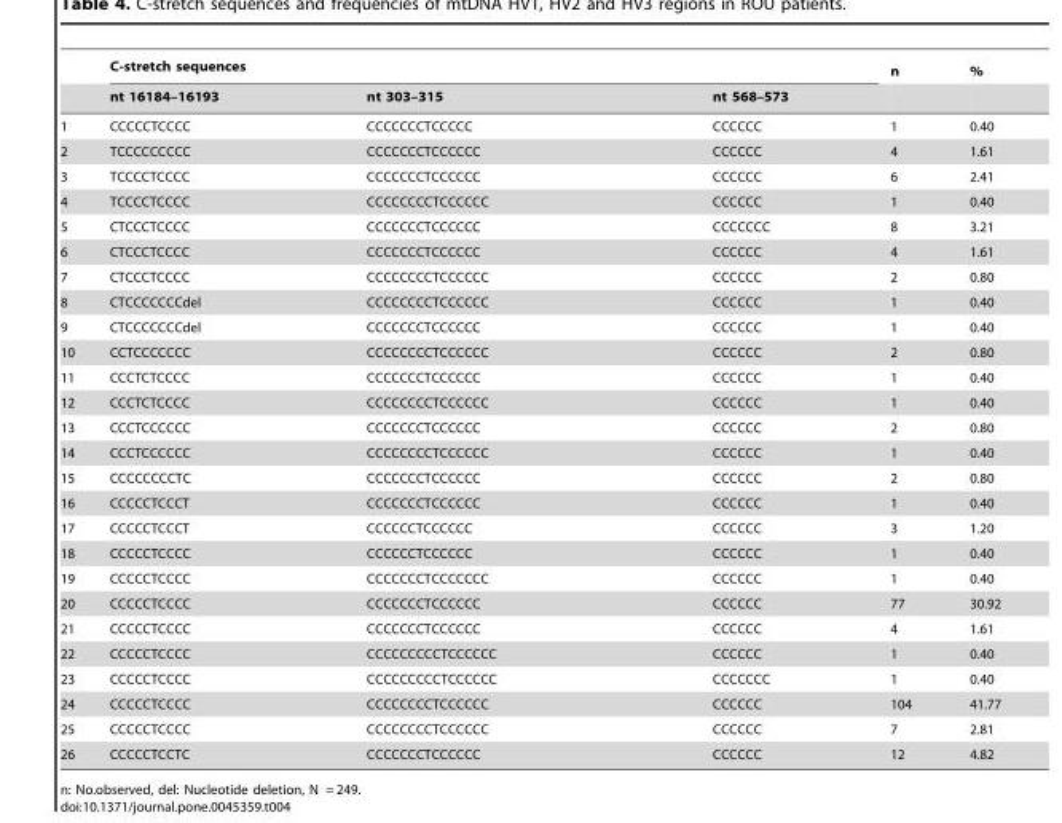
<table><thead><tr><td rowspan="2"></td><td colspan="3">C-stretch sequences</td><td rowspan="2">n</td><td rowspan="2">%</td></tr><tr><td>nt 16184–16193</td><td>nt 303–315</td><td>nt 568–573</td></tr></thead><tbody><tr><td>1</td><td>CCCCCTCCCC</td><td>CCCCCCCTCCCCC</td><td>CCCCCC</td><td>1</td><td>0.40</td></tr><tr><td>2</td><td>TCCCCCCCCC</td><td>CCCCCCCTCCCCCC</td><td>CCCCCC</td><td>4</td><td>1.61</td></tr><tr><td>3</td><td>TCCCCTCCCC</td><td>CCCCCCCTCCCCCC</td><td>CCCCCC</td><td>6</td><td>2.41</td></tr><tr><td>4</td><td>TCCCCTCCCC</td><td>CCCCCCCCTCCCCCC</td><td>CCCCCC</td><td>1</td><td>0.40</td></tr><tr><td>5</td><td>CTCCCTCCCC</td><td>CCCCCCCTCCCCCC</td><td>CCCCCCC</td><td>8</td><td>3.21</td></tr><tr><td>6</td><td>CTCCCTCCCC</td><td>CCCCCCCTCCCCCC</td><td>CCCCCC</td><td>4</td><td>1.61</td></tr><tr><td>7</td><td>CTCCCTCCCC</td><td>CCCCCCCCTCCCCCC</td><td>CCCCCC</td><td>2</td><td>0.80</td></tr><tr><td>8</td><td>CTCCCCCCCdel</td><td>CCCCCCCCTCCCCCC</td><td>CCCCCC</td><td>1</td><td>0.40</td></tr><tr><td>9</td><td>CTCCCCCCCdel</td><td>CCCCCCCTCCCCCC</td><td>CCCCCC</td><td>1</td><td>0.40</td></tr><tr><td>10</td><td>CCTCCCCCCC</td><td>CCCCCCCCTCCCCCC</td><td>CCCCCC</td><td>2</td><td>0.80</td></tr><tr><td>11</td><td>CCCTCTCCCC</td><td>CCCCCCCTCCCCCC</td><td>CCCCCC</td><td>1</td><td>0.40</td></tr><tr><td>12</td><td>CCCTCTCCCC</td><td>CCCCCCCCTCCCCCC</td><td>CCCCCC</td><td>1</td><td>0.40</td></tr><tr><td>13</td><td>CCCTCCCCCC</td><td>CCCCCCCTCCCCCC</td><td>CCCCCC</td><td>2</td><td>0.80</td></tr><tr><td>14</td><td>CCCTCCCCCC</td><td>CCCCCCCCTCCCCCC</td><td>CCCCCC</td><td>1</td><td>0.40</td></tr><tr><td>15</td><td>CCCCCCCCTC</td><td>CCCCCCCTCCCCCC</td><td>CCCCCC</td><td>2</td><td>0.80</td></tr><tr><td>16</td><td>CCCCCTCCCT</td><td>CCCCCCCTCCCCCC</td><td>CCCCCC</td><td>1</td><td>0.40</td></tr><tr><td>17</td><td>CCCCCTCCCT</td><td>CCCCCCTCCCCCC</td><td>CCCCCC</td><td>3</td><td>1.20</td></tr><tr><td>18</td><td>CCCCCTCCCC</td><td>CCCCCCTCCCCCC</td><td>CCCCCC</td><td>1</td><td>0.40</td></tr><tr><td>19</td><td>CCCCCTCCCC</td><td>CCCCCCCTCCCCCCC</td><td>CCCCCC</td><td>1</td><td>0.40</td></tr><tr><td>20</td><td>CCCCCTCCCC</td><td>CCCCCCCTCCCCCC</td><td>CCCCCC</td><td>77</td><td>30.92</td></tr><tr><td>21</td><td>CCCCCTCCCC</td><td>CCCCCCCTCCCCCC</td><td>CCCCCC</td><td>4</td><td>1.61</td></tr><tr><td>22</td><td>CCCCCTCCCC</td><td>CCCCCCCCCTCCCCCC</td><td>CCCCCC</td><td>1</td><td>0.40</td></tr><tr><td>23</td><td>CCCCCTCCCC</td><td>CCCCCCCCCTCCCCCC</td><td>CCCCCCC</td><td>1</td><td>0.40</td></tr><tr><td>24</td><td>CCCCCTCCCC</td><td>CCCCCCCCTCCCCCC</td><td>CCCCCC</td><td>104</td><td>41.77</td></tr><tr><td>25</td><td>CCCCCTCCCC</td><td>CCCCCCCCTCCCCCC</td><td>CCCCCC</td><td>7</td><td>2.81</td></tr><tr><td>26</td><td>CCCCCTCCTC</td><td>CCCCCCCTCCCCCC</td><td>CCCCCC</td><td>12</td><td>4.82</td></tr></tbody></table>